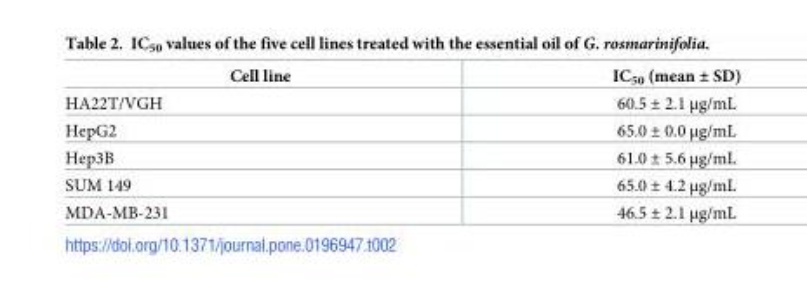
<table><thead><tr><td>Cell line</td><td>IC<sub>50</sub> (mean ± SD)</td></tr></thead><tbody><tr><td>HA22T/VGH</td><td>60.5 ± 2.1 μg/mL</td></tr><tr><td>HepG2</td><td>65.0 ± 0.0 μg/mL</td></tr><tr><td>Hep3B</td><td>61.0 ± 5.6 μg/mL</td></tr><tr><td>SUM 149</td><td>65.0 ± 4.2 μg/mL</td></tr><tr><td>MDA-MB-231</td><td>46.5 ± 2.1 μg/mL</td></tr></tbody></table>